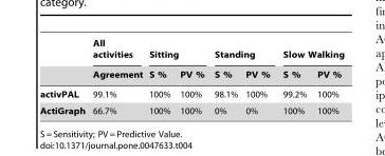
<table><thead><tr><td rowspan="2"></td><td rowspan="2">All activities Agreement</td><td colspan="2">Sitting</td><td colspan="2">Standing</td><td colspan="2">Slow Walking</td></tr><tr><td>S %</td><td>PV %</td><td>S %</td><td>PV %</td><td>S %</td><td>PV %</td></tr></thead><tbody><tr><td>activPAL</td><td>99.1%</td><td>100%</td><td>100%</td><td>98.1%</td><td>100%</td><td>99.2%</td><td>100%</td></tr><tr><td>ActiGraph</td><td>66.7%</td><td>100%</td><td>100%</td><td>0%</td><td>0%</td><td>100%</td><td>100%</td></tr></tbody></table>